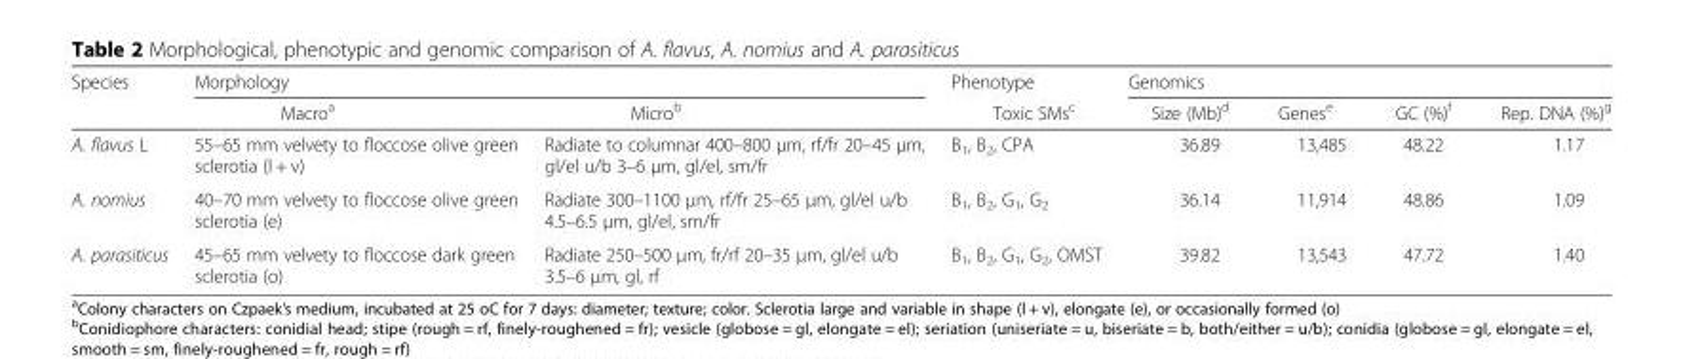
<table><thead><tr><td rowspan="2">Species</td><td colspan="2">Morphology</td><td rowspan="2">Phenotype Toxic SMs<sup>c</sup></td><td colspan="4">Genomics</td></tr><tr><td>Macro<sup>a</sup></td><td>Micro<sup>b</sup></td><td>Size (Mb)<sup>d</sup></td><td>Genes<sup>e</sup></td><td>GC (%)<sup>f</sup></td><td>Rep. DNA (%)<sup>g</sup></td></tr></thead><tbody><tr><td>A. flavus L</td><td>55–65 mm velvety to floccose olive green sclerotia (l + v)</td><td>Radiate to columnar 400–800 μm, rf/fr 20–45 μm, gl/el u/b 3–6 μm, gl/el, sm/fr</td><td>B<sub>1</sub>, B<sub>2</sub>, CPA</td><td>36.89</td><td>13,485</td><td>48.22</td><td>1.17</td></tr><tr><td>A. nomius</td><td>40–70 mm velvety to floccose olive green sclerotia (e)</td><td>Radiate 300–1100 μm, rf/fr 25–65 μm, gl/el u/b 4.5–6.5 μm, gl/el, sm/fr</td><td>B<sub>1</sub>, B<sub>2</sub>, G<sub>1</sub>, G<sub>2</sub></td><td>36.14</td><td>11,914</td><td>48.86</td><td>1.09</td></tr><tr><td>A. parasiticus</td><td>45–65 mm velvety to floccose dark green sclerotia (o)</td><td>Radiate 250–500 μm, fr/rf 20–35 μm, gl/el u/b 3.5–6 μm, gl, rf</td><td>B<sub>1</sub>, B<sub>2</sub>, G<sub>1</sub>, G<sub>2</sub>, OMST</td><td>39.82</td><td>13,543</td><td>47.72</td><td>1.40</td></tr></tbody></table>